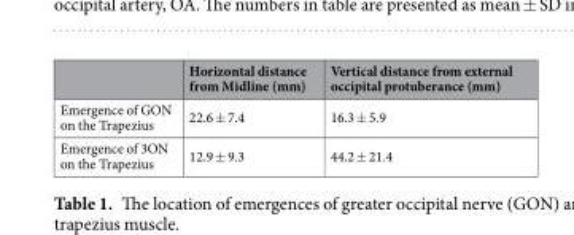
<table><thead><tr><td></td><td>Horizontal distance from Midline (mm)</td><td>Vertical distance from external occipital protuberance (mm)</td></tr></thead><tbody><tr><td>Emergence of GON on the Trapezius</td><td>22.6 ± 7.4</td><td>16.3 ± 5.9</td></tr><tr><td>Emergence of 3ON on the Trapezius</td><td>12.9 ± 9.3</td><td>44.2 ± 21.4</td></tr></tbody></table>